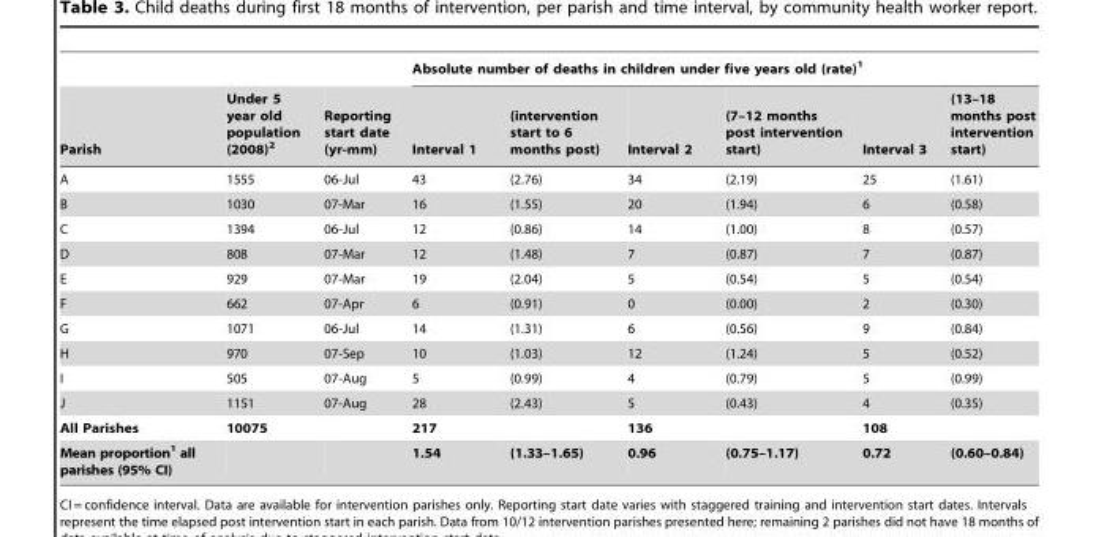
<table><thead><tr><td rowspan="2">Parish</td><td rowspan="2">Under 5 year old population (2008)<sup>2</sup></td><td rowspan="2">Reporting start date (yr-mm)</td><td colspan="6">Absolute number of deaths in children under five years old (rate)<sup>1</sup></td></tr><tr><td>Interval 1</td><td>(intervention start to 6 months post)</td><td>Interval 2</td><td>(7–12 months post intervention start)</td><td>Interval 3</td><td>(13–18 months post intervention start)</td></tr></thead><tbody><tr><td>A</td><td>1555</td><td>06-Jul</td><td>43</td><td>(2.76)</td><td>34</td><td>(2.19)</td><td>25</td><td>(1.61)</td></tr><tr><td>B</td><td>1030</td><td>07-Mar</td><td>16</td><td>(1.55)</td><td>20</td><td>(1.94)</td><td>6</td><td>(0.58)</td></tr><tr><td>C</td><td>1394</td><td>06-Jul</td><td>12</td><td>(0.86)</td><td>14</td><td>(1.00)</td><td>8</td><td>(0.57)</td></tr><tr><td>D</td><td>808</td><td>07-Mar</td><td>12</td><td>(1.48)</td><td>7</td><td>(0.87)</td><td>7</td><td>(0.87)</td></tr><tr><td>E</td><td>929</td><td>07-Mar</td><td>19</td><td>(2.04)</td><td>5</td><td>(0.54)</td><td>5</td><td>(0.54)</td></tr><tr><td>F</td><td>662</td><td>07-Apr</td><td>6</td><td>(0.91)</td><td>0</td><td>(0.00)</td><td>2</td><td>(0.30)</td></tr><tr><td>G</td><td>1071</td><td>06-Jul</td><td>14</td><td>(1.31)</td><td>6</td><td>(0.56)</td><td>9</td><td>(0.84)</td></tr><tr><td>H</td><td>970</td><td>07-Sep</td><td>10</td><td>(1.03)</td><td>12</td><td>(1.24)</td><td>5</td><td>(0.52)</td></tr><tr><td>I</td><td>505</td><td>07-Aug</td><td>5</td><td>(0.99)</td><td>4</td><td>(0.79)</td><td>5</td><td>(0.99)</td></tr><tr><td>J</td><td>1151</td><td>07-Aug</td><td>28</td><td>(2.43)</td><td>5</td><td>(0.43)</td><td>4</td><td>(0.35)</td></tr><tr><td>All Parishes</td><td>10075</td><td></td><td colspan="2">217</td><td colspan="2">136</td><td colspan="2">108</td></tr><tr><td>Mean proportion1 all parishes (95% CI)</td><td></td><td></td><td>1.54</td><td>(1.33–1.65)</td><td>0.96</td><td>(0.75–1.17)</td><td>0.72</td><td>(0.60–0.84)</td></tr></tbody></table>